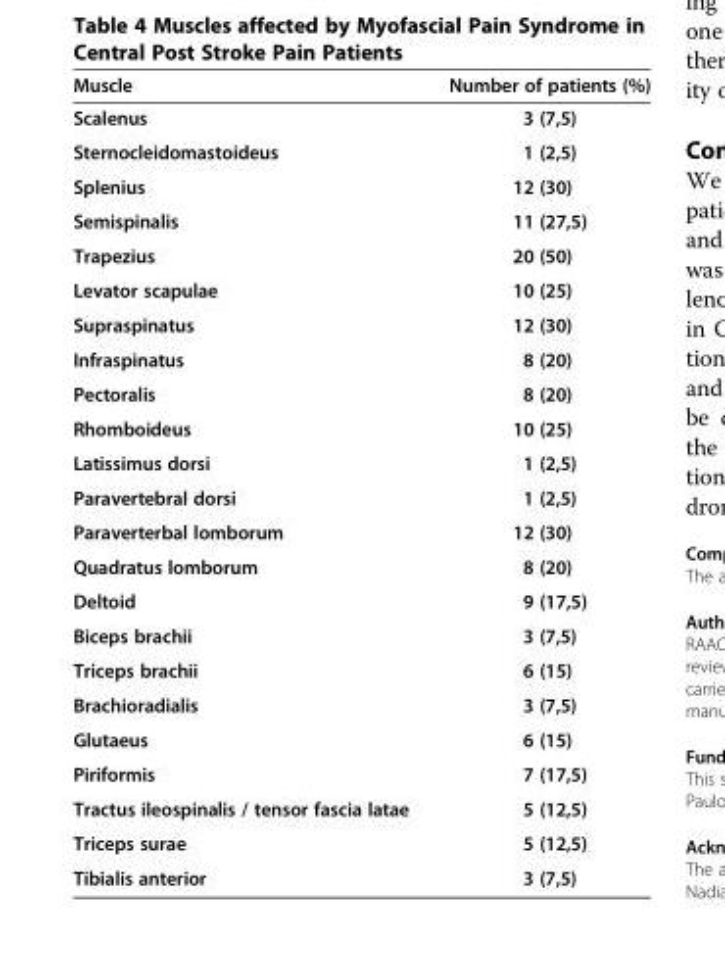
<table><thead><tr><td>Muscle</td><td>Number of patients (%)</td></tr></thead><tbody><tr><td>Scalenus</td><td>3 (7,5)</td></tr><tr><td>Sternocleidomastoideus</td><td>1 (2,5)</td></tr><tr><td>Splenius</td><td>12 (30)</td></tr><tr><td>Semispinalis</td><td>11 (27,5)</td></tr><tr><td>Trapezius</td><td>20 (50)</td></tr><tr><td>Levator scapulae</td><td>10 (25)</td></tr><tr><td>Supraspinatus</td><td>12 (30)</td></tr><tr><td>Infraspinatus</td><td>8 (20)</td></tr><tr><td>Pectoralis</td><td>8 (20)</td></tr><tr><td>Rhomboideus</td><td>10 (25)</td></tr><tr><td>Latissimus dorsi</td><td>1 (2,5)</td></tr><tr><td>Paravertebral dorsi</td><td>1 (2,5)</td></tr><tr><td>Paraverterbal lomborum</td><td>12 (30)</td></tr><tr><td>Quadratus lomborum</td><td>8 (20)</td></tr><tr><td>Deltoid</td><td>9 (17,5)</td></tr><tr><td>Biceps brachii</td><td>3 (7,5)</td></tr><tr><td>Triceps brachii</td><td>6 (15)</td></tr><tr><td>Brachioradialis</td><td>3 (7,5)</td></tr><tr><td>Glutaeus</td><td>6 (15)</td></tr><tr><td>Piriformis</td><td>7 (17,5)</td></tr><tr><td>Tractus ileospinalis / tensor fascia latae</td><td>5 (12,5)</td></tr><tr><td>Triceps surae</td><td>5 (12,5)</td></tr><tr><td>Tibialis anterior</td><td>3 (7,5)</td></tr></tbody></table>